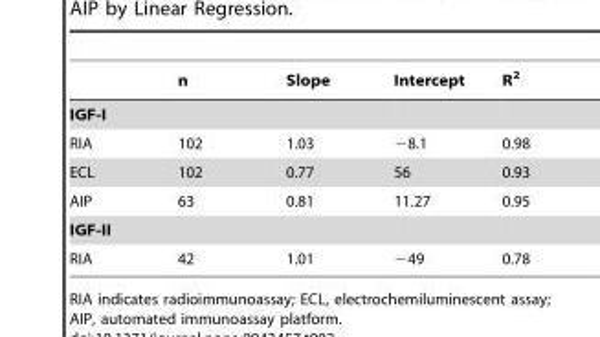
<table><thead><tr><td></td><td>n</td><td>Slope</td><td>Intercept</td><td>R<sup>2</sup></td></tr></thead><tbody><tr><td colspan="5">IGF-I</td></tr><tr><td>RIA</td><td>102</td><td>1.03</td><td>−8.1</td><td>0.98</td></tr><tr><td>ECL</td><td>102</td><td>0.77</td><td>56</td><td>0.93</td></tr><tr><td>AIP</td><td>63</td><td>0.81</td><td>11.27</td><td>0.95</td></tr><tr><td colspan="5">IGF-II</td></tr><tr><td>RIA</td><td>42</td><td>1.01</td><td>−49</td><td>0.78</td></tr></tbody></table>